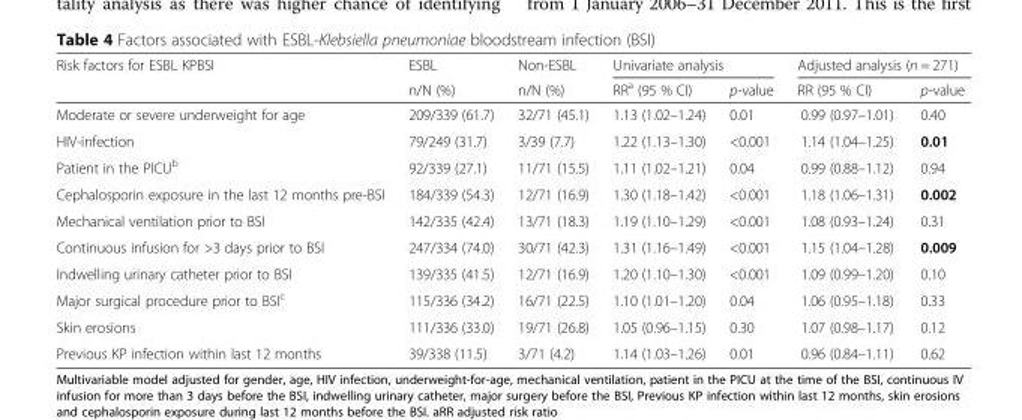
<table><thead><tr><td rowspan="2">Risk factors for ESBL KPBSI</td><td rowspan="2">ESBL n/N (%)</td><td rowspan="2">Non-ESBL n/N (%)</td><td colspan="2">Univariate analysis</td><td colspan="2">Adjusted analysis (n = 271)</td></tr><tr><td>RR<sup>a</sup> (95 % CI)</td><td>p-value</td><td>RR (95 % CI)</td><td>p-value</td></tr></thead><tbody><tr><td>Moderate or severe underweight for age</td><td>209/339 (61.7)</td><td>32/71 (45.1)</td><td>1.13 (1.02–1.24)</td><td>0.01</td><td>0.99 (0.97–1.01)</td><td>0.40</td></tr><tr><td>HIV-infection</td><td>79/249 (31.7)</td><td>3/39 (7.7)</td><td>1.22 (1.13–1.30)</td><td>&lt;0.001</td><td>1.14 (1.04–1.25)</td><td>0.01</td></tr><tr><td>Patient in the PICU<sup>b</sup></td><td>92/339 (27.1)</td><td>11/71 (15.5)</td><td>1.11 (1.02–1.21)</td><td>0.04</td><td>0.99 (0.88–1.12)</td><td>0.94</td></tr><tr><td>Cephalosporin exposure in the last 12 months pre-BSI</td><td>184/339 (54.3)</td><td>12/71 (16.9)</td><td>1.30 (1.18–1.42)</td><td>&lt;0.001</td><td>1.18 (1.06–1.31)</td><td>0.002</td></tr><tr><td>Mechanical ventilation prior to BSI</td><td>142/335 (42.4)</td><td>13/71 (18.3)</td><td>1.19 (1.10–1.29)</td><td>&lt;0.001</td><td>1.08 (0.93–1.24)</td><td>0.31</td></tr><tr><td>Continuous infusion for &gt;3 days prior to BSI</td><td>247/334 (74.0)</td><td>30/71 (42.3)</td><td>1.31 (1.16–1.49)</td><td>&lt;0.001</td><td>1.15 (1.04–1.28)</td><td>0.009</td></tr><tr><td>Indwelling urinary catheter prior to BSI</td><td>139/335 (41.5)</td><td>12/71 (16.9)</td><td>1.20 (1.10–1.30)</td><td>&lt;0.001</td><td>1.09 (0.99–1.20)</td><td>0.10</td></tr><tr><td>Major surgical procedure prior to BSI<sup>c</sup></td><td>115/336 (34.2)</td><td>16/71 (22.5)</td><td>1.10 (1.01–1.20)</td><td>0.04</td><td>1.06 (0.95–1.18)</td><td>0.33</td></tr><tr><td>Skin erosions</td><td>111/336 (33.0)</td><td>19/71 (26.8)</td><td>1.05 (0.96–1.15)</td><td>0.30</td><td>1.07 (0.98–1.17)</td><td>0.12</td></tr><tr><td>Previous KP infection within last 12 months</td><td>39/338 (11.5)</td><td>3/71 (4.2)</td><td>1.14 (1.03–1.26)</td><td>0.01</td><td>0.96 (0.84–1.11)</td><td>0.62</td></tr></tbody></table>